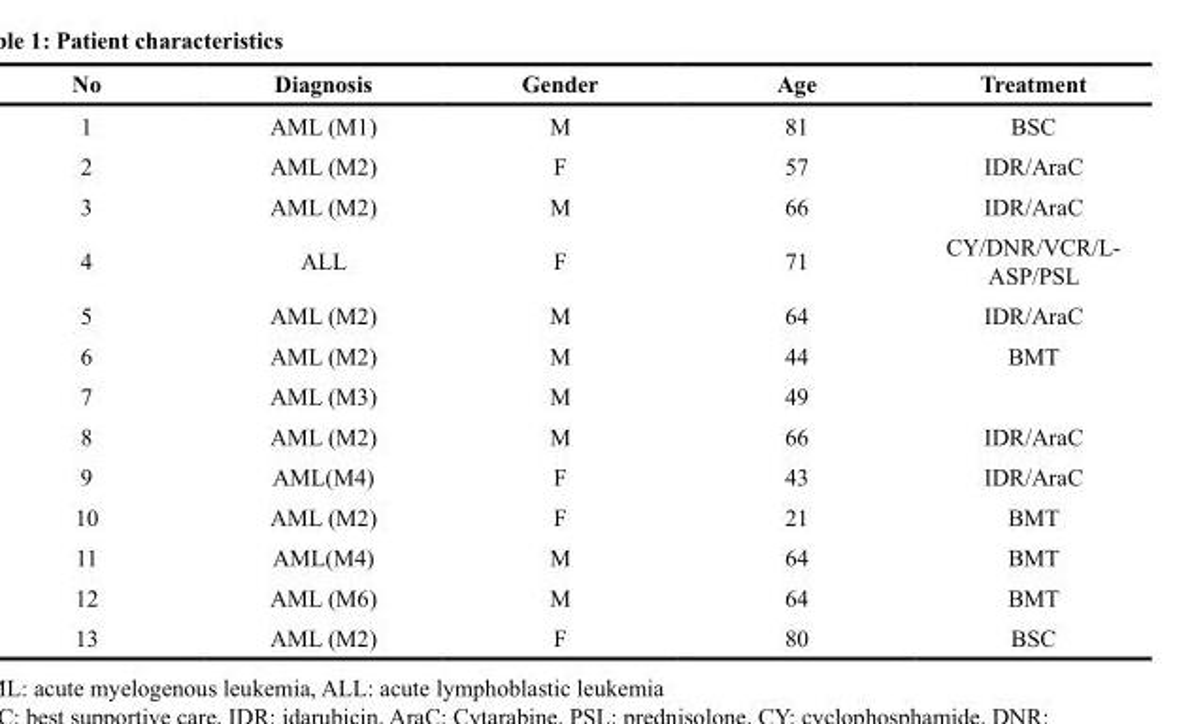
<table><thead><tr><td>No</td><td>Diagnosis</td><td>Gender</td><td>Age</td><td>Treatment</td></tr></thead><tbody><tr><td>1</td><td>AML (M1)</td><td>M</td><td>81</td><td>BSC</td></tr><tr><td>2</td><td>AML (M2)</td><td>F</td><td>57</td><td>IDR/AraC</td></tr><tr><td>3</td><td>AML (M2)</td><td>M</td><td>66</td><td>IDR/AraC</td></tr><tr><td>4</td><td>ALL</td><td>F</td><td>71</td><td>CY/DNR/VCR/L- ASP/PSL</td></tr><tr><td>5</td><td>AML (M2)</td><td>M</td><td>64</td><td>IDR/AraC</td></tr><tr><td>6</td><td>AML (M2)</td><td>M</td><td>44</td><td>BMT</td></tr><tr><td>7</td><td>AML (M3)</td><td>M</td><td>49</td><td></td></tr><tr><td>8</td><td>AML (M2)</td><td>M</td><td>66</td><td>IDR/AraC</td></tr><tr><td>9</td><td>AML(M4)</td><td>F</td><td>43</td><td>IDR/AraC</td></tr><tr><td>10</td><td>AML (M2)</td><td>F</td><td>21</td><td>BMT</td></tr><tr><td>11</td><td>AML(M4)</td><td>M</td><td>64</td><td>BMT</td></tr><tr><td>12</td><td>AML (M6)</td><td>M</td><td>64</td><td>BMT</td></tr><tr><td>13</td><td>AML (M2)</td><td>F</td><td>80</td><td>BSC</td></tr></tbody></table>